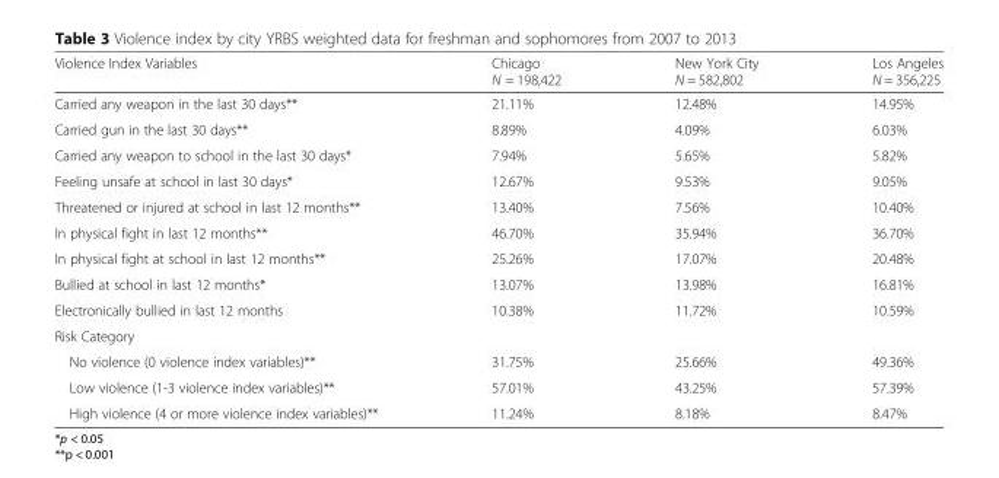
<table><thead><tr><td>Violence Index Variables</td><td>Chicago N = 198,422</td><td>New York City N = 582,802</td><td>Los Angeles N = 356,225</td></tr></thead><tbody><tr><td>Carried any weapon in the last 30 days**</td><td>21.11%</td><td>12.48%</td><td>14.95%</td></tr><tr><td>Carried gun in the last 30 days**</td><td>8.89%</td><td>4.09%</td><td>6.03%</td></tr><tr><td>Carried any weapon to school in the last 30 days*</td><td>7.94%</td><td>5.65%</td><td>5.82%</td></tr><tr><td>Feeling unsafe at school in last 30 days*</td><td>12.67%</td><td>9.53%</td><td>9.05%</td></tr><tr><td>Threatened or injured at school in last 12 months**</td><td>13.40%</td><td>7.56%</td><td>10.40%</td></tr><tr><td>In physical fight in last 12 months**</td><td>46.70%</td><td>35.94%</td><td>36.70%</td></tr><tr><td>In physical fight at school in last 12 months**</td><td>25.26%</td><td>17.07%</td><td>20.48%</td></tr><tr><td>Bullied at school in last 12 months*</td><td>13.07%</td><td>13.98%</td><td>16.81%</td></tr><tr><td>Electronically bullied in last 12 months</td><td>10.38%</td><td>11.72%</td><td>10.59%</td></tr><tr><td colspan="4">Risk Category</td></tr><tr><td>No violence (0 violence index variables)**</td><td>31.75%</td><td>25.66%</td><td>49.36%</td></tr><tr><td>Low violence (1-3 violence index variables)**</td><td>57.01%</td><td>43.25%</td><td>57.39%</td></tr><tr><td>High violence (4 or more violence index variables)**</td><td>11.24%</td><td>8.18%</td><td>8.47%</td></tr></tbody></table>